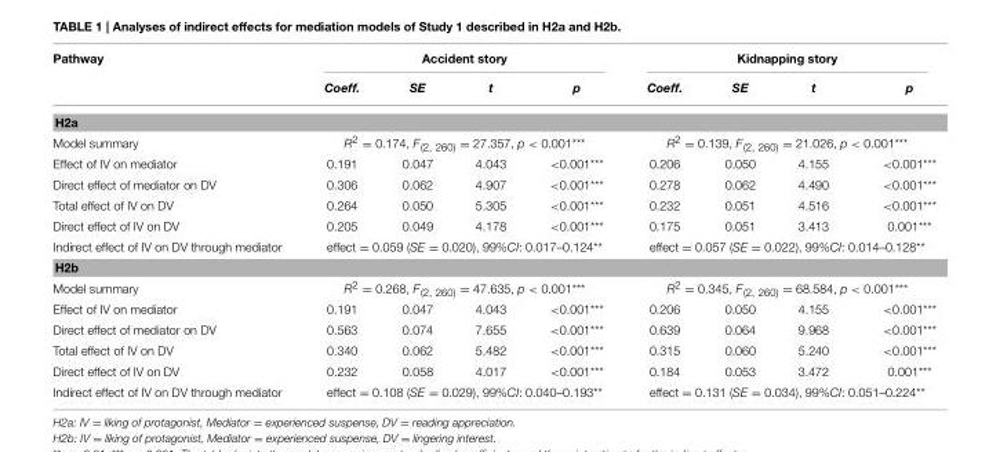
<table><thead><tr><td rowspan="2">Pathway</td><td colspan="4">Accident story</td><td colspan="4">Kidnapping story</td></tr><tr><td>Coeff.</td><td>SE</td><td>t</td><td>p</td><td>Coeff.</td><td>SE</td><td>t</td><td>p</td></tr></thead><tbody><tr><td colspan="9">H2a</td></tr><tr><td>Model summary</td><td colspan="4">R<sup>2</sup> = 0.174, F<sub>(2, 260)</sub> = 27.357, p &lt; 0.001***</td><td colspan="4">R<sup>2</sup> = 0.139, F<sub>(2, 260)</sub> = 21.026, p &lt; 0.001***</td></tr><tr><td>Effect of IV on mediator</td><td>0.191</td><td>0.047</td><td>4.043</td><td>&lt;0.001***</td><td>0.206</td><td>0.050</td><td>4.155</td><td>&lt;0.001***</td></tr><tr><td>Direct effect of mediator on DV</td><td>0.306</td><td>0.062</td><td>4.907</td><td>&lt;0.001***</td><td>0.278</td><td>0.062</td><td>4.490</td><td>&lt;0.001***</td></tr><tr><td>Total effect of IV on DV</td><td>0.264</td><td>0.050</td><td>5.305</td><td>&lt;0.001***</td><td>0.232</td><td>0.051</td><td>4.516</td><td>&lt;0.001***</td></tr><tr><td>Direct effect of IV on DV</td><td>0.205</td><td>0.049</td><td>4.178</td><td>&lt;0.001***</td><td>0.175</td><td>0.051</td><td>3.413</td><td>0.001***</td></tr><tr><td>Indirect effect of IV on DV through mediator</td><td colspan="4">effect = 0.059 (SE = 0.020), 99%CI: 0.017–0.124**</td><td colspan="4">effect = 0.057 (SE = 0.022), 99%CI: 0.014–0.128**</td></tr><tr><td colspan="9">H2b</td></tr><tr><td>Model summary</td><td colspan="4">R<sup>2</sup> = 0.268, F<sub>(2, 260)</sub> = 47.635, p &lt; 0.001***</td><td colspan="4">R<sup>2</sup> = 0.345, F<sub>(2, 260)</sub> = 68.584, p &lt; 0.001***</td></tr><tr><td>Effect of IV on mediator</td><td>0.191</td><td>0.047</td><td>4.043</td><td>&lt;0.001***</td><td>0.206</td><td>0.050</td><td>4.155</td><td>&lt;0.001***</td></tr><tr><td>Direct effect of mediator on DV</td><td>0.563</td><td>0.074</td><td>7.655</td><td>&lt;0.001***</td><td>0.639</td><td>0.064</td><td>9.968</td><td>&lt;0.001***</td></tr><tr><td>Total effect of IV on DV</td><td>0.340</td><td>0.062</td><td>5.482</td><td>&lt;0.001***</td><td>0.315</td><td>0.060</td><td>5.240</td><td>&lt;0.001***</td></tr><tr><td>Direct effect of IV on DV</td><td>0.232</td><td>0.058</td><td>4.017</td><td>&lt;0.001***</td><td>0.184</td><td>0.053</td><td>3.472</td><td>0.001***</td></tr><tr><td>Indirect effect of IV on DV through mediator</td><td colspan="4">effect = 0.108 (SE = 0.029), 99%CI: 0.040–0.193**</td><td colspan="4">effect = 0.131 (SE = 0.034), 99%CI: 0.051–0.224**</td></tr></tbody></table>